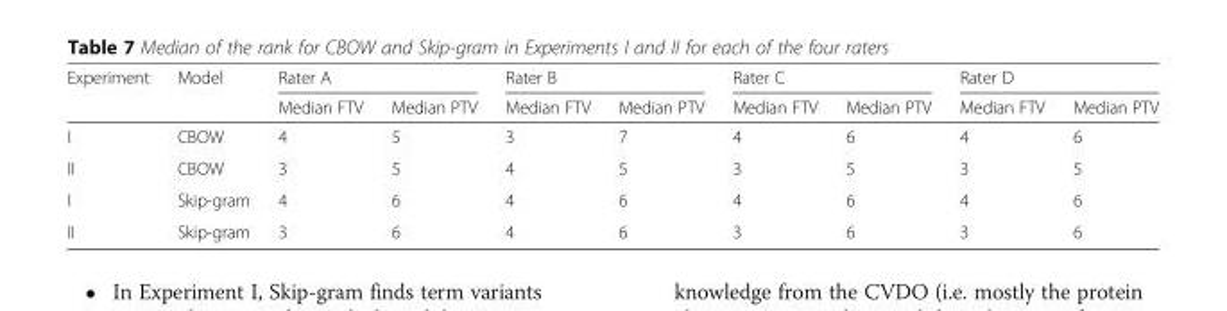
<table><thead><tr><td rowspan="2">Experiment</td><td rowspan="2">Model</td><td colspan="2">Rater A</td><td colspan="2">Rater B</td><td colspan="2">Rater C</td><td colspan="2">Rater D</td></tr><tr><td>Median FTV</td><td>Median PTV</td><td>Median FTV</td><td>Median PTV</td><td>Median FTV</td><td>Median PTV</td><td>Median FTV</td><td>Median PTV</td></tr></thead><tbody><tr><td>I</td><td>CBOW</td><td>4</td><td>5</td><td>3</td><td>7</td><td>4</td><td>6</td><td>4</td><td>6</td></tr><tr><td>II</td><td>CBOW</td><td>3</td><td>5</td><td>4</td><td>5</td><td>3</td><td>5</td><td>3</td><td>5</td></tr><tr><td>I</td><td>Skip-gram</td><td>4</td><td>6</td><td>4</td><td>6</td><td>4</td><td>6</td><td>4</td><td>6</td></tr><tr><td>II</td><td>Skip-gram</td><td>3</td><td>6</td><td>4</td><td>6</td><td>3</td><td>6</td><td>3</td><td>6</td></tr></tbody></table>